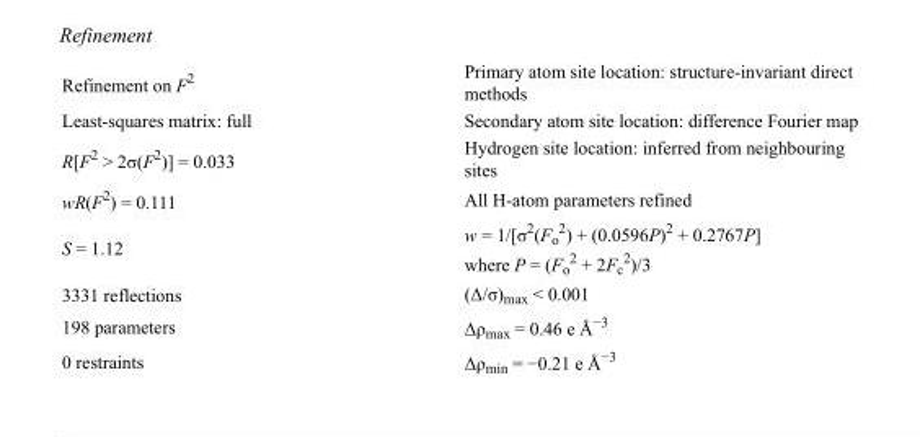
<table><tbody><tr><td>Refinement on F<sup>2</sup></td><td>Primary atom site location: structure-invariant direct methods</td></tr><tr><td>Least-squares matrix: full</td><td>Secondary atom site location: difference Fourier map</td></tr><tr><td>R[F<sup>2</sup> &gt; 2σ(F<sup>2</sup>)] = 0.033</td><td>Hydrogen site location: inferred from neighbouring sites</td></tr><tr><td>wR(F<sup>2</sup>) = 0.111</td><td>All H-atom parameters refined</td></tr><tr><td>S = 1.12</td><td>w = 1/[σ<sup>2</sup>(F<sub>o</sub> <sup>2</sup>) + (0.0596P)<sup>2</sup> + 0.2767P] where P = (F<sub>o</sub> <sup>2</sup> + 2F<sub>c</sub> <sup>2</sup>)/3</td></tr><tr><td>3331 reflections</td><td>(Δ/σ)<sub>max</sub> &lt; 0.001</td></tr><tr><td>198 parameters</td><td>Δρ<sub>max</sub> = 0.46 e Å<sup>−3</sup></td></tr><tr><td>0 restraints</td><td>Δρ<sub>min</sub> = −0.21 e Å<sup>−3</sup></td></tr></tbody></table>